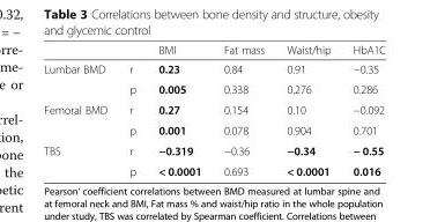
<table><thead><tr><td></td><td></td><td>BMI</td><td>Fat mass</td><td>Waist/hip</td><td>HbA1C</td></tr></thead><tbody><tr><td rowspan="2">Lumbar BMD</td><td>r</td><td>0.23</td><td>0.84</td><td>0.91</td><td>−0.35</td></tr><tr><td>p</td><td>0.005</td><td>0.338</td><td>0.276</td><td>0.286</td></tr><tr><td rowspan="2">Femoral BMD</td><td>r</td><td>0.27</td><td>0.154</td><td>0.10</td><td>−0.092</td></tr><tr><td>p</td><td>0.001</td><td>0.078</td><td>0.904</td><td>0.701</td></tr><tr><td rowspan="2">TBS</td><td>r</td><td>−0.319</td><td>−0.36</td><td>−0.34</td><td>− 0.55</td></tr><tr><td>p</td><td>&lt; 0.0001</td><td>0.693</td><td>&lt; 0.0001</td><td>0.016</td></tr></tbody></table>